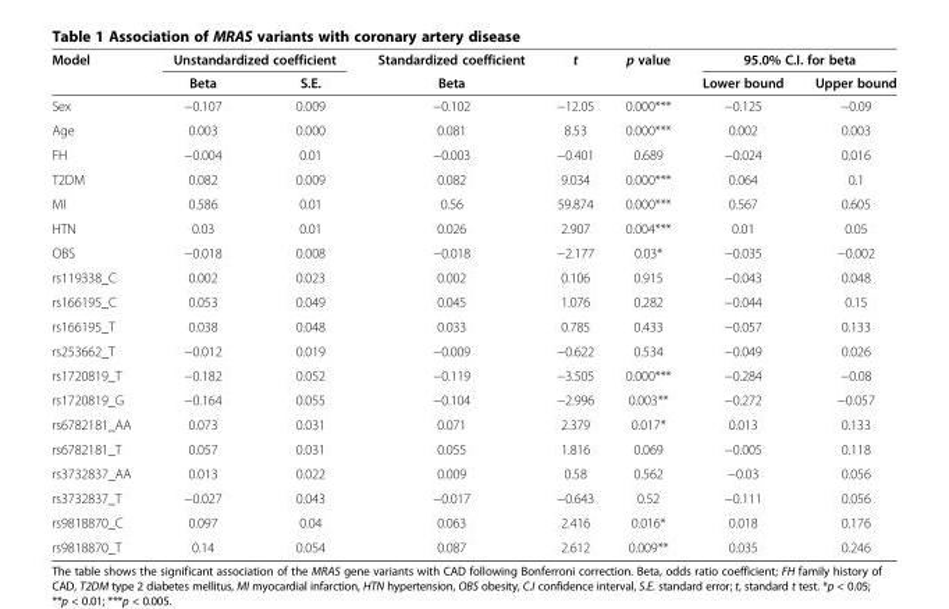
<table><thead><tr><td rowspan="2">Model</td><td colspan="2">Unstandardized coefficient</td><td rowspan="2">Standardized coefficient Beta</td><td rowspan="2">t</td><td rowspan="2">p value</td><td colspan="2">95.0% C.I. for beta</td></tr><tr><td>Beta</td><td>S.E.</td><td>Lower bound</td><td>Upper bound</td></tr></thead><tbody><tr><td>Sex</td><td>−0.107</td><td>0.009</td><td>−0.102</td><td>−12.05</td><td>0.000***</td><td>−0.125</td><td>−0.09</td></tr><tr><td>Age</td><td>0.003</td><td>0.000</td><td>0.081</td><td>8.53</td><td>0.000***</td><td>0.002</td><td>0.003</td></tr><tr><td>FH</td><td>−0.004</td><td>0.01</td><td>−0.003</td><td>−0.401</td><td>0.689</td><td>−0.024</td><td>0.016</td></tr><tr><td>T2DM</td><td>0.082</td><td>0.009</td><td>0.082</td><td>9.034</td><td>0.000***</td><td>0.064</td><td>0.1</td></tr><tr><td>MI</td><td>0.586</td><td>0.01</td><td>0.56</td><td>59.874</td><td>0.000***</td><td>0.567</td><td>0.605</td></tr><tr><td>HTN</td><td>0.03</td><td>0.01</td><td>0.026</td><td>2.907</td><td>0.004***</td><td>0.01</td><td>0.05</td></tr><tr><td>OBS</td><td>−0.018</td><td>0.008</td><td>−0.018</td><td>−2.177</td><td>0.03*</td><td>−0.035</td><td>−0.002</td></tr><tr><td>rs119338_C</td><td>0.002</td><td>0.023</td><td>0.002</td><td>0.106</td><td>0.915</td><td>−0.043</td><td>0.048</td></tr><tr><td>rs166195_C</td><td>0.053</td><td>0.049</td><td>0.045</td><td>1.076</td><td>0.282</td><td>−0.044</td><td>0.15</td></tr><tr><td>rs166195_T</td><td>0.038</td><td>0.048</td><td>0.033</td><td>0.785</td><td>0.433</td><td>−0.057</td><td>0.133</td></tr><tr><td>rs253662_T</td><td>−0.012</td><td>0.019</td><td>−0.009</td><td>−0.622</td><td>0.534</td><td>−0.049</td><td>0.026</td></tr><tr><td>rs1720819_T</td><td>−0.182</td><td>0.052</td><td>−0.119</td><td>−3.505</td><td>0.000***</td><td>−0.284</td><td>−0.08</td></tr><tr><td>rs1720819_G</td><td>−0.164</td><td>0.055</td><td>−0.104</td><td>−2.996</td><td>0.003**</td><td>−0.272</td><td>−0.057</td></tr><tr><td>rs6782181_AA</td><td>0.073</td><td>0.031</td><td>0.071</td><td>2.379</td><td>0.017*</td><td>0.013</td><td>0.133</td></tr><tr><td>rs6782181_T</td><td>0.057</td><td>0.031</td><td>0.055</td><td>1.816</td><td>0.069</td><td>−0.005</td><td>0.118</td></tr><tr><td>rs3732837_AA</td><td>0.013</td><td>0.022</td><td>0.009</td><td>0.58</td><td>0.562</td><td>−0.03</td><td>0.056</td></tr><tr><td>rs3732837_T</td><td>−0.027</td><td>0.043</td><td>−0.017</td><td>−0.643</td><td>0.52</td><td>−0.111</td><td>0.056</td></tr><tr><td>rs9818870_C</td><td>0.097</td><td>0.04</td><td>0.063</td><td>2.416</td><td>0.016*</td><td>0.018</td><td>0.176</td></tr><tr><td>rs9818870_T</td><td>0.14</td><td>0.054</td><td>0.087</td><td>2.612</td><td>0.009**</td><td>0.035</td><td>0.246</td></tr></tbody></table>